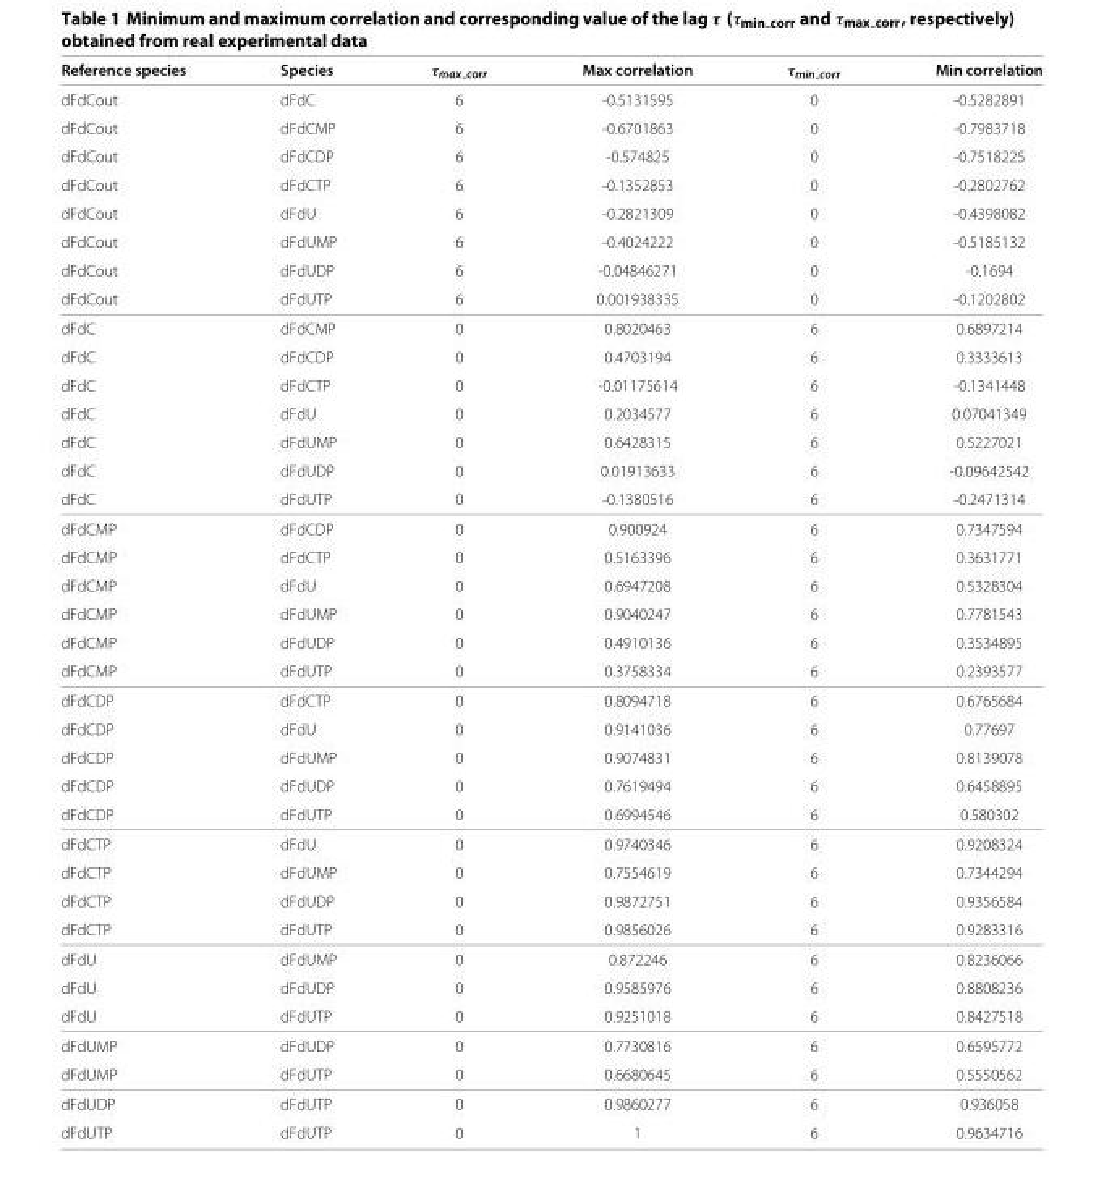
<table><thead><tr><td>Reference species</td><td>Species</td><td>τmax corr</td><td>Max correlation</td><td>τmin corr</td><td>Min correlation</td></tr></thead><tbody><tr><td>dFdCout</td><td>dFdC</td><td>6</td><td>-0.5131595</td><td>0</td><td>-0.5282891</td></tr><tr><td>dFdCout</td><td>dFdCMP</td><td>6</td><td>-0.6701863</td><td>0</td><td>-0.7983718</td></tr><tr><td>dFdCout</td><td>dFdCDP</td><td>6</td><td>-0.574825</td><td>0</td><td>-0.7518225</td></tr><tr><td>dFdCout</td><td>dFdCTP</td><td>6</td><td>-0.1352853</td><td>0</td><td>-0.2802762</td></tr><tr><td>dFdCout</td><td>dFdU</td><td>6</td><td>-0.2821309</td><td>0</td><td>-0.4398082</td></tr><tr><td>dFdCout</td><td>dFdUMP</td><td>6</td><td>-0.4024222</td><td>0</td><td>-0.5185132</td></tr><tr><td>dFdCout</td><td>dFdUDP</td><td>6</td><td>-0.04846271</td><td>0</td><td>-0.1694</td></tr><tr><td>dFdCout</td><td>dFdUTP</td><td>6</td><td>0.001938335</td><td>0</td><td>-0.1202802</td></tr><tr><td>dFdC</td><td>dFdCMP</td><td>0</td><td>0.8020463</td><td>6</td><td>0.6897214</td></tr><tr><td>dFdC</td><td>dFdCDP</td><td>0</td><td>0.4703194</td><td>6</td><td>0.3333613</td></tr><tr><td>dFdC</td><td>dFdCTP</td><td>0</td><td>-0.01175614</td><td>6</td><td>-0.1341448</td></tr><tr><td>dFdC</td><td>dFdU</td><td>0</td><td>0.2034577</td><td>6</td><td>0.07041349</td></tr><tr><td>dFdC</td><td>dFdUMP</td><td>0</td><td>0.6428315</td><td>6</td><td>0.5227021</td></tr><tr><td>dFdC</td><td>dFdUDP</td><td>0</td><td>0.01913633</td><td>6</td><td>-0.09642542</td></tr><tr><td>dFdC</td><td>dFdUTP</td><td>0</td><td>-0.1380516</td><td>6</td><td>-0.2471314</td></tr><tr><td>dFdCMP</td><td>dFdCDP</td><td>0</td><td>0.900924</td><td>6</td><td>0.7347594</td></tr><tr><td>dFdCMP</td><td>dFdCTP</td><td>0</td><td>0.5163396</td><td>6</td><td>0.3631771</td></tr><tr><td>dFdCMP</td><td>dFdU</td><td>0</td><td>0.6947208</td><td>6</td><td>0.5328304</td></tr><tr><td>dFdCMP</td><td>dFdUMP</td><td>0</td><td>0.9040247</td><td>6</td><td>0.7781543</td></tr><tr><td>dFdCMP</td><td>dFdUDP</td><td>0</td><td>0.4910136</td><td>6</td><td>0.3534895</td></tr><tr><td>dFdCMP</td><td>dFdUTP</td><td>0</td><td>0.3758334</td><td>6</td><td>0.2393577</td></tr><tr><td>dFdCDP</td><td>dFdCTP</td><td>0</td><td>0.8094718</td><td>6</td><td>0.6765684</td></tr><tr><td>dFdCDP</td><td>dFdU</td><td>0</td><td>0.9141036</td><td>6</td><td>0.77697</td></tr><tr><td>dFdCDP</td><td>dFdUMP</td><td>0</td><td>0.9074831</td><td>6</td><td>0.8139078</td></tr><tr><td>dFdCDP</td><td>dFdUDP</td><td>0</td><td>0.7619494</td><td>6</td><td>0.6458895</td></tr><tr><td>dFdCDP</td><td>dFdUTP</td><td>0</td><td>0.6994546</td><td>6</td><td>0.580302</td></tr><tr><td>dFdCTP</td><td>dFdU</td><td>0</td><td>0.9740346</td><td>6</td><td>0.9208324</td></tr><tr><td>dFdCTP</td><td>dFdUMP</td><td>0</td><td>0.7554619</td><td>6</td><td>0.7344294</td></tr><tr><td>dFdCTP</td><td>dFdUDP</td><td>0</td><td>0.9872751</td><td>6</td><td>0.9356584</td></tr><tr><td>dFdCTP</td><td>dFdUTP</td><td>0</td><td>0.9856026</td><td>6</td><td>0.9283316</td></tr><tr><td>dFdU</td><td>dFdUMP</td><td>0</td><td>0.872246</td><td>6</td><td>0.8236066</td></tr><tr><td>dFdU</td><td>dFdUDP</td><td>0</td><td>0.9585976</td><td>6</td><td>0.8808236</td></tr><tr><td>dFdU</td><td>dFdUTP</td><td>0</td><td>0.9251018</td><td>6</td><td>0.8427518</td></tr><tr><td>dFdUMP</td><td>dFdUDP</td><td>0</td><td>0.7730816</td><td>6</td><td>0.6595772</td></tr><tr><td>dFdUMP</td><td>dFdUTP</td><td>0</td><td>0.6680645</td><td>6</td><td>0.5550562</td></tr><tr><td>dFdUDP</td><td>dFdUTP</td><td>0</td><td>0.9860277</td><td>6</td><td>0.936058</td></tr><tr><td>dFdUTP</td><td>dFdUTP</td><td>0</td><td>1</td><td>6</td><td>0.9634716</td></tr></tbody></table>